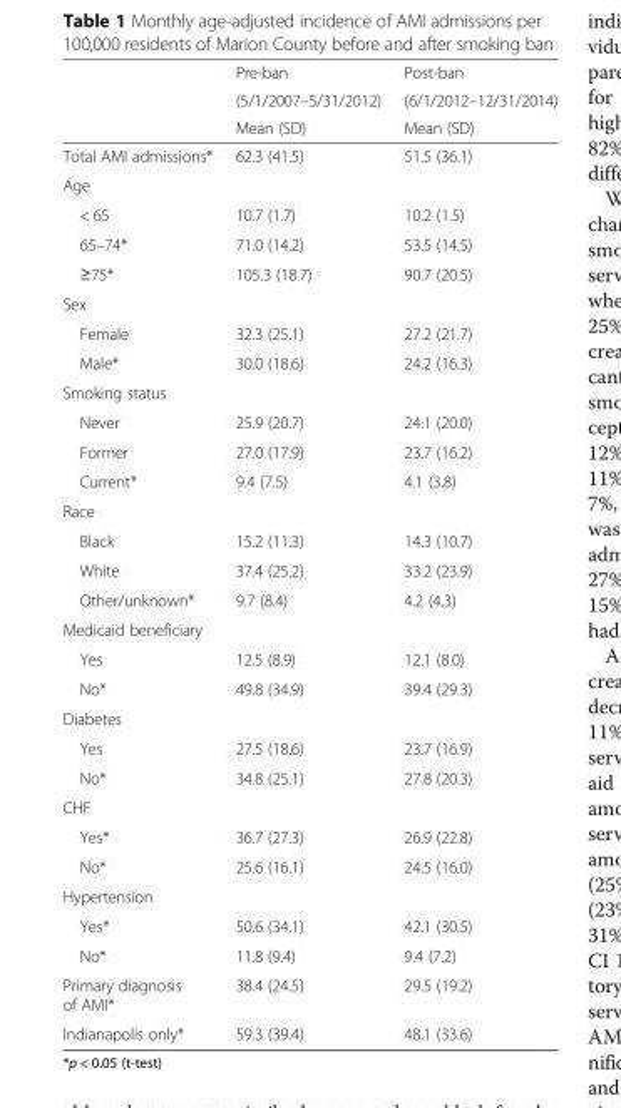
<table><thead><tr><td rowspan="3"></td><td rowspan="3">Pre-ban (5/1/2007–5/31/2012) Mean (SD)</td><td rowspan="3">Post-ban (6/1/2012–12/31/2014) Mean (SD)</td></tr><tr></tr><tr></tr></thead><tbody><tr><td>Total AMI admissions*</td><td>62.3 (41.5)</td><td>51.5 (36.1)</td></tr><tr><td colspan="3">Age</td></tr><tr><td>&lt; 65</td><td>10.7 (1.7)</td><td>10.2 (1.5)</td></tr><tr><td>65–74*</td><td>71.0 (14.2)</td><td>53.5 (14.5)</td></tr><tr><td>≥75*</td><td>105.3 (18.7)</td><td>90.7 (20.5)</td></tr><tr><td colspan="3">Sex</td></tr><tr><td>Female</td><td>32.3 (25.1)</td><td>27.2 (21.7)</td></tr><tr><td>Male*</td><td>30.0 (18.6)</td><td>24.2 (16.3)</td></tr><tr><td colspan="3">Smoking status</td></tr><tr><td>Never</td><td>25.9 (20.7)</td><td>24.1 (20.0)</td></tr><tr><td>Former</td><td>27.0 (17.9)</td><td>23.7 (16.2)</td></tr><tr><td>Current*</td><td>9.4 (7.5)</td><td>4.1 (3.8)</td></tr><tr><td colspan="3">Race</td></tr><tr><td>Black</td><td>15.2 (11.3)</td><td>14.3 (10.7)</td></tr><tr><td>White</td><td>37.4 (25.2)</td><td>33.2 (23.9)</td></tr><tr><td>Other/unknown*</td><td>9.7 (8.4)</td><td>4.2 (4.3)</td></tr><tr><td colspan="3">Medicaid beneficiary</td></tr><tr><td>Yes</td><td>12.5 (8.9)</td><td>12.1 (8.0)</td></tr><tr><td>No*</td><td>49.8 (34.9)</td><td>39.4 (29.3)</td></tr><tr><td colspan="3">Diabetes</td></tr><tr><td>Yes</td><td>27.5 (18.6)</td><td>23.7 (16.9)</td></tr><tr><td>No*</td><td>34.8 (25.1)</td><td>27.8 (20.3)</td></tr><tr><td colspan="3">CHF</td></tr><tr><td>Yes*</td><td>36.7 (27.3)</td><td>26.9 (22.8)</td></tr><tr><td>No*</td><td>25.6 (16.1)</td><td>24.5 (16.0)</td></tr><tr><td colspan="3">Hypertension</td></tr><tr><td>Yes*</td><td>50.6 (34.1)</td><td>42.1 (30.5)</td></tr><tr><td>No*</td><td>11.8 (9.4)</td><td>9.4 (7.2)</td></tr><tr><td>Primary diagnosis of AMI*</td><td>38.4 (24.5)</td><td>29.5 (19.2)</td></tr><tr><td>Indianapolis only*</td><td>59.3 (39.4)</td><td>48.1 (33.6)</td></tr></tbody></table>